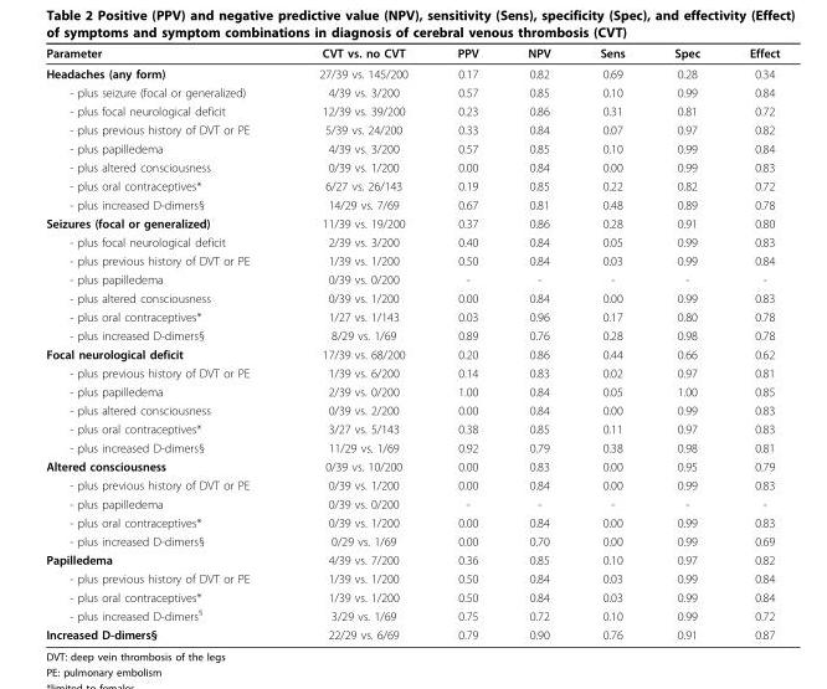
<table><thead><tr><td>Parameter</td><td>CVT vs. no CVT</td><td>PPV</td><td>NPV</td><td>Sens</td><td>Spec</td><td>Effect</td></tr></thead><tbody><tr><td>Headaches (any form)</td><td>27/39 vs. 145/200</td><td>0.17</td><td>0.82</td><td>0.69</td><td>0.28</td><td>0.34</td></tr><tr><td>- plus seizure (focal or generalized)</td><td>4/39 vs. 3/200</td><td>0.57</td><td>0.85</td><td>0.10</td><td>0.99</td><td>0.84</td></tr><tr><td>- plus focal neurological deficit</td><td>12/39 vs. 39/200</td><td>0.23</td><td>0.86</td><td>0.31</td><td>0.81</td><td>0.72</td></tr><tr><td>- plus previous history of DVT or PE</td><td>5/39 vs. 24/200</td><td>0.33</td><td>0.84</td><td>0.07</td><td>0.97</td><td>0.82</td></tr><tr><td>- plus papilledema</td><td>4/39 vs. 3/200</td><td>0.57</td><td>0.85</td><td>0.10</td><td>0.99</td><td>0.84</td></tr><tr><td>- plus altered consciousness</td><td>0/39 vs. 1/200</td><td>0.00</td><td>0.84</td><td>0.00</td><td>0.99</td><td>0.83</td></tr><tr><td>- plus oral contraceptives*</td><td>6/27 vs. 26/143</td><td>0.19</td><td>0.85</td><td>0.22</td><td>0.82</td><td>0.72</td></tr><tr><td>- plus increased D-dimers§</td><td>14/29 vs. 7/69</td><td>0.67</td><td>0.81</td><td>0.48</td><td>0.89</td><td>0.78</td></tr><tr><td>Seizures (focal or generalized)</td><td>11/39 vs. 19/200</td><td>0.37</td><td>0.86</td><td>0.28</td><td>0.91</td><td>0.80</td></tr><tr><td>- plus focal neurological deficit</td><td>2/39 vs. 3/200</td><td>0.40</td><td>0.84</td><td>0.05</td><td>0.99</td><td>0.83</td></tr><tr><td>- plus previous history of DVT or PE</td><td>1/39 vs. 1/200</td><td>0.50</td><td>0.84</td><td>0.03</td><td>0.99</td><td>0.84</td></tr><tr><td>- plus papilledema</td><td>0/39 vs. 0/200</td><td>-</td><td>-</td><td>-</td><td>-</td><td>-</td></tr><tr><td>- plus altered consciousness</td><td>0/39 vs. 1/200</td><td>0.00</td><td>0.84</td><td>0.00</td><td>0.99</td><td>0.83</td></tr><tr><td>- plus oral contraceptives*</td><td>1/27 vs. 1/143</td><td>0.03</td><td>0.96</td><td>0.17</td><td>0.80</td><td>0.78</td></tr><tr><td>- plus increased D-dimers§</td><td>8/29 vs. 1/69</td><td>0.89</td><td>0.76</td><td>0.28</td><td>0.98</td><td>0.78</td></tr><tr><td>Focal neurological deficit</td><td>17/39 vs. 68/200</td><td>0.20</td><td>0.86</td><td>0.44</td><td>0.66</td><td>0.62</td></tr><tr><td>- plus previous history of DVT or PE</td><td>1/39 vs. 6/200</td><td>0.14</td><td>0.83</td><td>0.02</td><td>0.97</td><td>0.81</td></tr><tr><td>- plus papilledema</td><td>2/39 vs. 0/200</td><td>1.00</td><td>0.84</td><td>0.05</td><td>1.00</td><td>0.85</td></tr><tr><td>- plus altered consciousness</td><td>0/39 vs. 2/200</td><td>0.00</td><td>0.84</td><td>0.00</td><td>0.99</td><td>0.83</td></tr><tr><td>- plus oral contraceptives*</td><td>3/27 vs. 5/143</td><td>0.38</td><td>0.85</td><td>0.11</td><td>0.97</td><td>0.83</td></tr><tr><td>- plus increased D-dimers§</td><td>11/29 vs. 1/69</td><td>0.92</td><td>0.79</td><td>0.38</td><td>0.98</td><td>0.81</td></tr><tr><td>Altered consciousness</td><td>0/39 vs. 10/200</td><td>0.00</td><td>0.83</td><td>0.00</td><td>0.95</td><td>0.79</td></tr><tr><td>- plus previous history of DVT or PE</td><td>0/39 vs. 1/200</td><td>0.00</td><td>0.84</td><td>0.00</td><td>0.99</td><td>0.83</td></tr><tr><td>- plus papilledema</td><td>0/39 vs. 0/200</td><td>-</td><td>-</td><td>-</td><td>-</td><td>-</td></tr><tr><td>- plus oral contraceptives*</td><td>0/39 vs. 1/200</td><td>0.00</td><td>0.84</td><td>0.00</td><td>0.99</td><td>0.83</td></tr><tr><td>- plus increased D-dimers§</td><td>0/29 vs. 1/69</td><td>0.00</td><td>0.70</td><td>0.00</td><td>0.99</td><td>0.69</td></tr><tr><td>Papilledema</td><td>4/39 vs. 7/200</td><td>0.36</td><td>0.85</td><td>0.10</td><td>0.97</td><td>0.82</td></tr><tr><td>- plus previous history of DVT or PE</td><td>1/39 vs. 1/200</td><td>0.50</td><td>0.84</td><td>0.03</td><td>0.99</td><td>0.84</td></tr><tr><td>- plus oral contraceptives*</td><td>1/39 vs. 1/200</td><td>0.50</td><td>0.84</td><td>0.03</td><td>0.99</td><td>0.84</td></tr><tr><td>- plus increased D-dimers<sup>§</sup></td><td>3/29 vs. 1/69</td><td>0.75</td><td>0.72</td><td>0.10</td><td>0.99</td><td>0.72</td></tr><tr><td>Increased D-dimers§</td><td>22/29 vs. 6/69</td><td>0.79</td><td>0.90</td><td>0.76</td><td>0.91</td><td>0.87</td></tr></tbody></table>